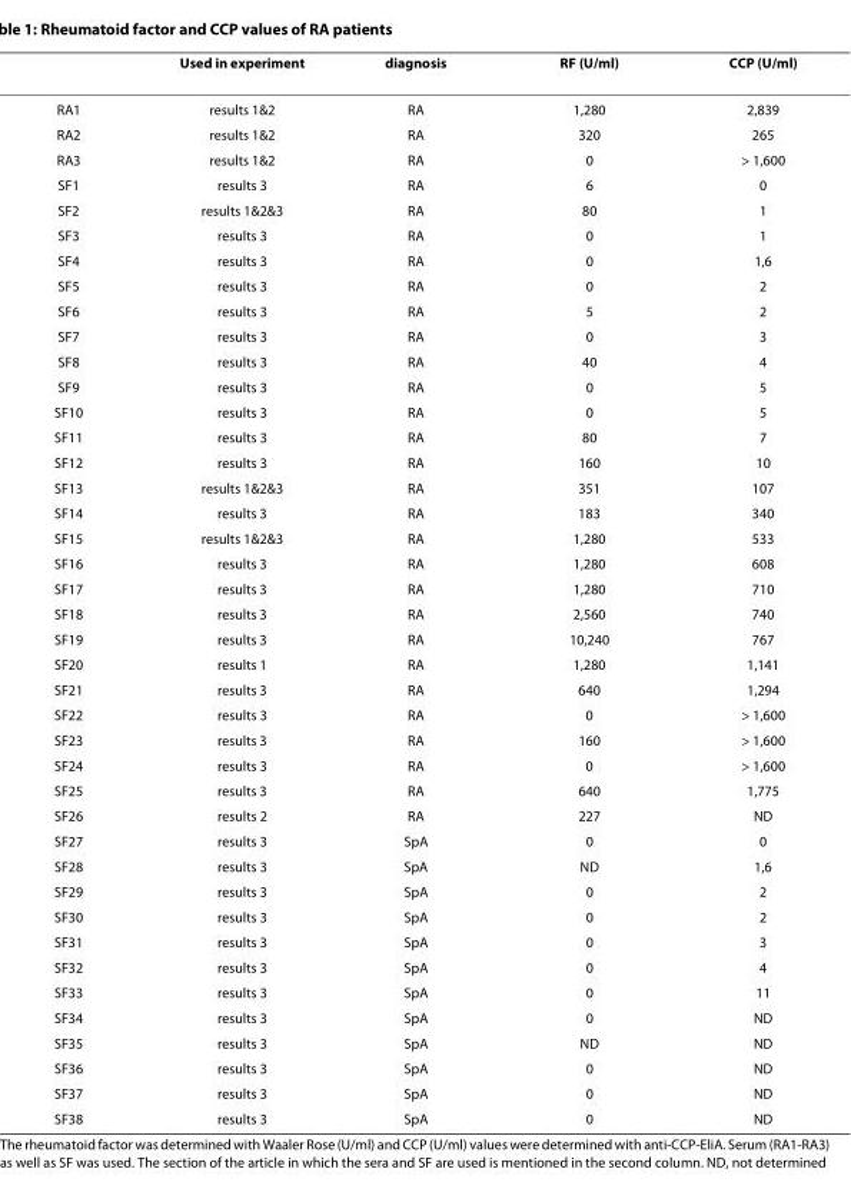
<table><thead><tr><td></td><td>Used in experiment</td><td>diagnosis</td><td>RF (U/ml)</td><td>CCP (U/ml)</td></tr></thead><tbody><tr><td>RA1</td><td>results 1&amp;2</td><td>RA</td><td>1,280</td><td>2,839</td></tr><tr><td>RA2</td><td>results 1&amp;2</td><td>RA</td><td>320</td><td>265</td></tr><tr><td>RA3</td><td>results 1&amp;2</td><td>RA</td><td>0</td><td>&gt; 1,600</td></tr><tr><td>SF1</td><td>results 3</td><td>RA</td><td>6</td><td>0</td></tr><tr><td>SF2</td><td>results 1&amp;2&amp;3</td><td>RA</td><td>80</td><td>1</td></tr><tr><td>SF3</td><td>results 3</td><td>RA</td><td>0</td><td>1</td></tr><tr><td>SF4</td><td>results 3</td><td>RA</td><td>0</td><td>1,6</td></tr><tr><td>SF5</td><td>results 3</td><td>RA</td><td>0</td><td>2</td></tr><tr><td>SF6</td><td>results 3</td><td>RA</td><td>5</td><td>2</td></tr><tr><td>SF7</td><td>results 3</td><td>RA</td><td>0</td><td>3</td></tr><tr><td>SF8</td><td>results 3</td><td>RA</td><td>40</td><td>4</td></tr><tr><td>SF9</td><td>results 3</td><td>RA</td><td>0</td><td>5</td></tr><tr><td>SF10</td><td>results 3</td><td>RA</td><td>0</td><td>5</td></tr><tr><td>SF11</td><td>results 3</td><td>RA</td><td>80</td><td>7</td></tr><tr><td>SF12</td><td>results 3</td><td>RA</td><td>160</td><td>10</td></tr><tr><td>SF13</td><td>results 1&amp;2&amp;3</td><td>RA</td><td>351</td><td>107</td></tr><tr><td>SF14</td><td>results 3</td><td>RA</td><td>183</td><td>340</td></tr><tr><td>SF15</td><td>results 1&amp;2&amp;3</td><td>RA</td><td>1,280</td><td>533</td></tr><tr><td>SF16</td><td>results 3</td><td>RA</td><td>1,280</td><td>608</td></tr><tr><td>SF17</td><td>results 3</td><td>RA</td><td>1,280</td><td>710</td></tr><tr><td>SF18</td><td>results 3</td><td>RA</td><td>2,560</td><td>740</td></tr><tr><td>SF19</td><td>results 3</td><td>RA</td><td>10,240</td><td>767</td></tr><tr><td>SF20</td><td>results 1</td><td>RA</td><td>1,280</td><td>1,141</td></tr><tr><td>SF21</td><td>results 3</td><td>RA</td><td>640</td><td>1,294</td></tr><tr><td>SF22</td><td>results 3</td><td>RA</td><td>0</td><td>&gt; 1,600</td></tr><tr><td>SF23</td><td>results 3</td><td>RA</td><td>160</td><td>&gt; 1,600</td></tr><tr><td>SF24</td><td>results 3</td><td>RA</td><td>0</td><td>&gt; 1,600</td></tr><tr><td>SF25</td><td>results 3</td><td>RA</td><td>640</td><td>1,775</td></tr><tr><td>SF26</td><td>results 2</td><td>RA</td><td>227</td><td>ND</td></tr><tr><td>SF27</td><td>results 3</td><td>SpA</td><td>0</td><td>0</td></tr><tr><td>SF28</td><td>results 3</td><td>SpA</td><td>ND</td><td>1,6</td></tr><tr><td>SF29</td><td>results 3</td><td>SpA</td><td>0</td><td>2</td></tr><tr><td>SF30</td><td>results 3</td><td>SpA</td><td>0</td><td>2</td></tr><tr><td>SF31</td><td>results 3</td><td>SpA</td><td>0</td><td>3</td></tr><tr><td>SF32</td><td>results 3</td><td>SpA</td><td>0</td><td>4</td></tr><tr><td>SF33</td><td>results 3</td><td>SpA</td><td>0</td><td>11</td></tr><tr><td>SF34</td><td>results 3</td><td>SpA</td><td>0</td><td>ND</td></tr><tr><td>SF35</td><td>results 3</td><td>SpA</td><td>ND</td><td>ND</td></tr><tr><td>SF36</td><td>results 3</td><td>SpA</td><td>0</td><td>ND</td></tr><tr><td>SF37</td><td>results 3</td><td>SpA</td><td>0</td><td>ND</td></tr><tr><td>SF38</td><td>results 3</td><td>SpA</td><td>0</td><td>ND</td></tr></tbody></table>